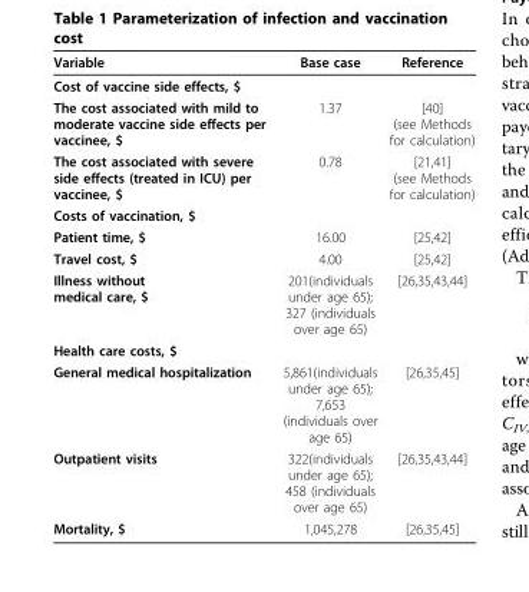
<table><thead><tr><td>Variable</td><td>Base case</td><td>Reference</td></tr></thead><tbody><tr><td colspan="3">Cost of vaccine side effects, $</td></tr><tr><td>The cost associated with mild to moderate vaccine side effects per vaccinee, $</td><td>1.37</td><td>[40] (see Methods for calculation)</td></tr><tr><td>The cost associated with severe side effects (treated in ICU) per vaccinee, $</td><td>0.78</td><td>[21,41] (see Methods for calculation)</td></tr><tr><td colspan="3">Costs of vaccination, $</td></tr><tr><td>Patient time, $</td><td>16.00</td><td>[25,42]</td></tr><tr><td>Travel cost, $</td><td>4.00</td><td>[25,42]</td></tr><tr><td>Illness without medical care, $</td><td>201(individuals under age 65); 327 (individuals over age 65)</td><td>[26,35,43,44]</td></tr><tr><td colspan="3">Health care costs, $</td></tr><tr><td>General medical hospitalization</td><td>5,861(individuals under age 65); 7,653 (individuals over age 65)</td><td>[26,35,45]</td></tr><tr><td>Outpatient visits</td><td>322(individuals under age 65); 458 (individuals over age 65)</td><td>[26,35,43,44]</td></tr><tr><td>Mortality, $</td><td>1,045,278</td><td>[26,35,45]</td></tr></tbody></table>